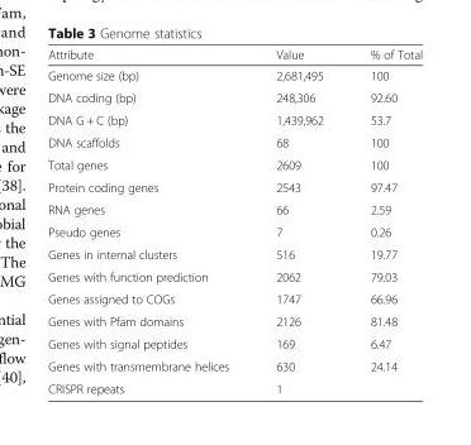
<table><thead><tr><td>Attribute</td><td>Value</td><td>% of Total</td></tr></thead><tbody><tr><td>Genome size (bp)</td><td>2,681,495</td><td>100</td></tr><tr><td>DNA coding (bp)</td><td>248,306</td><td>92.60</td></tr><tr><td>DNA G + C (bp)</td><td>1,439,962</td><td>53.7</td></tr><tr><td>DNA scaffolds</td><td>68</td><td>100</td></tr><tr><td>Total genes</td><td>2609</td><td>100</td></tr><tr><td>Protein coding genes</td><td>2543</td><td>97.47</td></tr><tr><td>RNA genes</td><td>66</td><td>2.59</td></tr><tr><td>Pseudo genes</td><td>7</td><td>0.26</td></tr><tr><td>Genes in internal clusters</td><td>516</td><td>19.77</td></tr><tr><td>Genes with function prediction</td><td>2062</td><td>79.03</td></tr><tr><td>Genes assigned to COGs</td><td>1747</td><td>66.96</td></tr><tr><td>Genes with Pfam domains</td><td>2126</td><td>81.48</td></tr><tr><td>Genes with signal peptides</td><td>169</td><td>6.47</td></tr><tr><td>Genes with transmembrane helices</td><td>630</td><td>24.14</td></tr><tr><td>CRISPR repeats</td><td>1</td><td></td></tr></tbody></table>